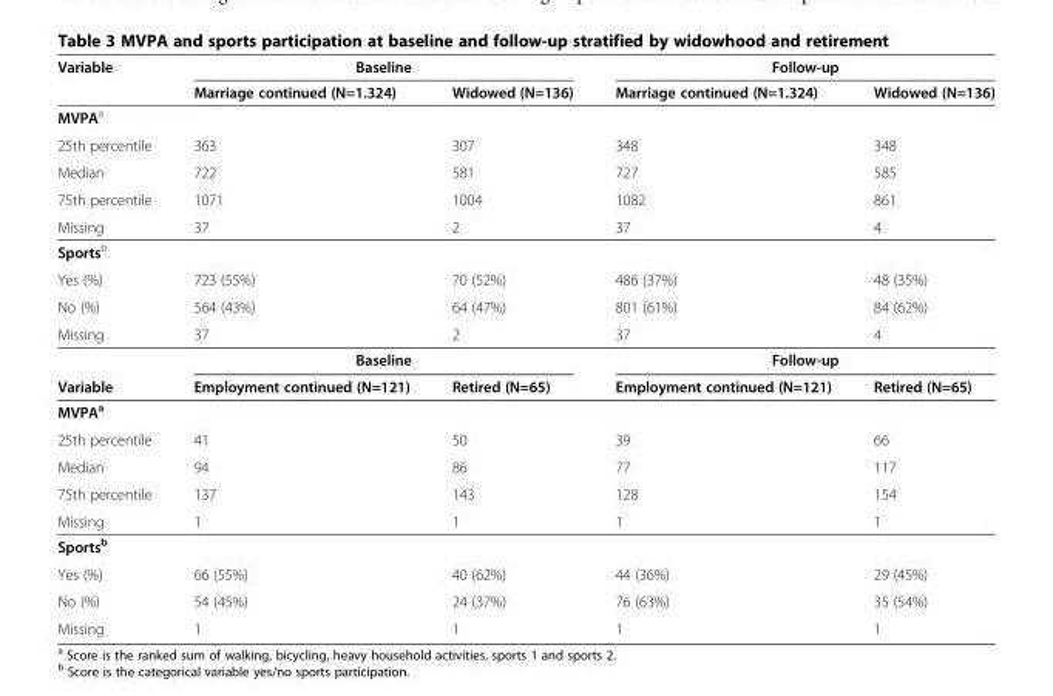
<table><thead><tr><td rowspan="2">Variable</td><td colspan="2">Baseline</td><td colspan="2">Follow-up</td></tr><tr><td>Marriage continued (N=1.324)</td><td>Widowed (N=136)</td><td>Marriage continued (N=1.324)</td><td>Widowed (N=136)</td></tr></thead><tbody><tr><td colspan="5">MVPA<sup>a</sup></td></tr><tr><td>25th percentile</td><td>363</td><td>307</td><td>348</td><td>348</td></tr><tr><td>Median</td><td>722</td><td>581</td><td>727</td><td>585</td></tr><tr><td>75th percentile</td><td>1071</td><td>1004</td><td>1082</td><td>861</td></tr><tr><td>Missing</td><td>37</td><td>2</td><td>37</td><td>4</td></tr><tr><td colspan="5">Sports<sup>b</sup></td></tr><tr><td>Yes (%)</td><td>723 (55%)</td><td>70 (52%)</td><td>486 (37%)</td><td>48 (35%)</td></tr><tr><td>No (%)</td><td>564 (43%)</td><td>64 (47%)</td><td>801 (61%)</td><td>84 (62%)</td></tr><tr><td rowspan="2">Missing</td><td>37</td><td>2</td><td>37</td><td>4</td></tr><tr><td colspan="2">Baseline</td><td colspan="2">Follow-up</td></tr><tr><td>Variable</td><td>Employment continued (N=121)</td><td>Retired (N=65)</td><td>Employment continued (N=121)</td><td>Retired (N=65)</td></tr><tr><td colspan="5">MVPA<sup>a</sup></td></tr><tr><td>25th percentile</td><td>41</td><td>50</td><td>39</td><td>66</td></tr><tr><td>Median</td><td>94</td><td>86</td><td>77</td><td>117</td></tr><tr><td>75th percentile</td><td>137</td><td>143</td><td>128</td><td>154</td></tr><tr><td>Missing</td><td>1</td><td>1</td><td>1</td><td>1</td></tr><tr><td colspan="5">Sports<sup>b</sup></td></tr><tr><td>Yes (%)</td><td>66 (55%)</td><td>40 (62%)</td><td>44 (36%)</td><td>29 (45%)</td></tr><tr><td>No (%)</td><td>54 (45%)</td><td>24 (37%)</td><td>76 (63%)</td><td>35 (54%)</td></tr><tr><td>Missing</td><td>1</td><td>1</td><td>1</td><td>1</td></tr></tbody></table>